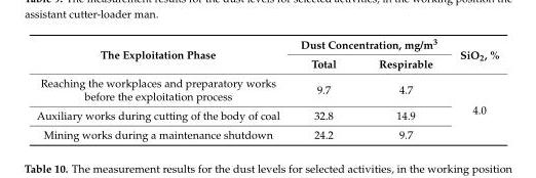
<table><thead><tr><td rowspan="2">The Exploitation Phase</td><td colspan="2">Dust Concentration, mg/m<sup>3</sup></td><td rowspan="2">SiO<sub>2</sub>, %</td></tr><tr><td>Total</td><td>Respirable</td></tr></thead><tbody><tr><td>Reaching the workplaces and preparatory works before the exploitation process</td><td>9.7</td><td>4.7</td><td rowspan="3">4.0</td></tr><tr><td>Auxiliary works during cutting of the body of coal</td><td>32.8</td><td>14.9</td></tr><tr><td>Mining works during a maintenance shutdown</td><td>24.2</td><td>9.7</td></tr></tbody></table>